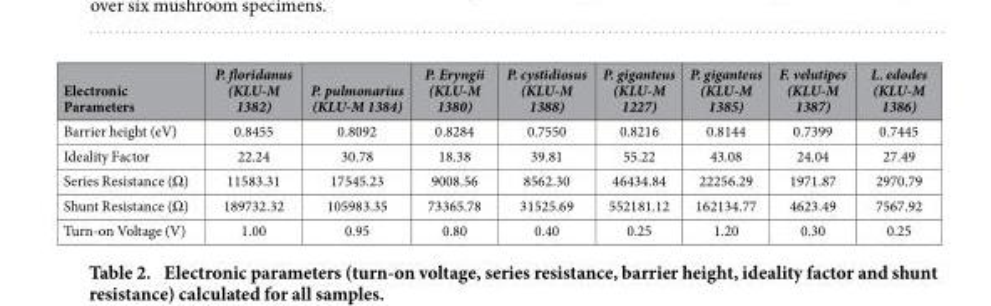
<table><thead><tr><td>Electronic Parameters</td><td>P. floridanus (KLU-M 1382)</td><td>P. pulmonarius (KLU-M 1384)</td><td>P. Eryngii (KLU-M 1380)</td><td>P. cystidiosus (KLU-M 1388)</td><td>P. giganteus (KLU-M 1227)</td><td>P. giganteus (KLU-M 1385)</td><td>F. velutipes (KLU-M 1387)</td><td>L. edodes (KLU-M 1386)</td></tr></thead><tbody><tr><td>Barrier height (eV)</td><td>0.8455</td><td>0.8092</td><td>0.8284</td><td>0.7550</td><td>0.8216</td><td>0.8144</td><td>0.7399</td><td>0.7445</td></tr><tr><td>Ideality Factor</td><td>22.24</td><td>30.78</td><td>18.38</td><td>39.81</td><td>55.22</td><td>43.08</td><td>24.04</td><td>27.49</td></tr><tr><td>Series Resistance (Ω )</td><td>11583.31</td><td>17545.23</td><td>9008.56</td><td>8562.30</td><td>46434.84</td><td>22256.29</td><td>1971.87</td><td>2970.79</td></tr><tr><td>Shunt Resistance (Ω )</td><td>189732.32</td><td>105983.35</td><td>73365.78</td><td>31525.69</td><td>552181.12</td><td>162134.77</td><td>4623.49</td><td>7567.92</td></tr><tr><td>Turn-on Voltage (V)</td><td>1.00</td><td>0.95</td><td>0.80</td><td>0.40</td><td>0.25</td><td>1.20</td><td>0.30</td><td>0.25</td></tr></tbody></table>